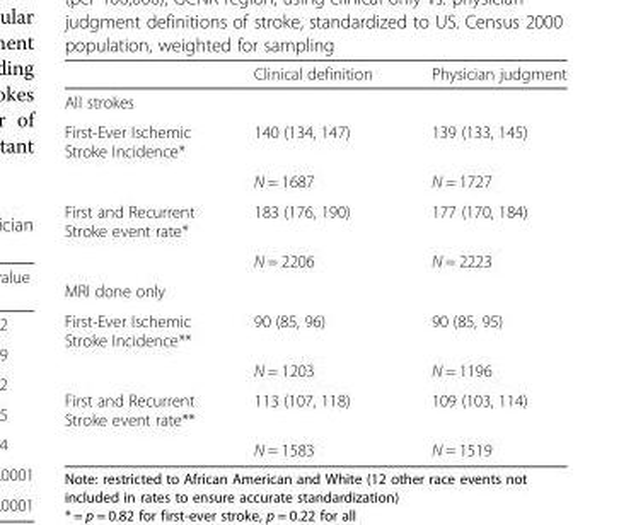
<table><thead><tr><td></td><td>Clinical definition</td><td>Physician judgment</td></tr></thead><tbody><tr><td colspan="3">All strokes</td></tr><tr><td rowspan="2">First-Ever Ischemic Stroke Incidence*</td><td>140 (134, 147)</td><td>139 (133, 145)</td></tr><tr><td>N = 1687</td><td>N = 1727</td></tr><tr><td rowspan="2">First and Recurrent Stroke event rate*</td><td>183 (176, 190)</td><td>177 (170, 184)</td></tr><tr><td>N = 2206</td><td>N = 2223</td></tr><tr><td colspan="3">MRI done only</td></tr><tr><td rowspan="2">First-Ever Ischemic Stroke Incidence**</td><td>90 (85, 96)</td><td>90 (85, 95)</td></tr><tr><td>N = 1203</td><td>N = 1196</td></tr><tr><td rowspan="2">First and Recurrent Stroke event rate**</td><td>113 (107, 118)</td><td>109 (103, 114)</td></tr><tr><td>N = 1583</td><td>N = 1519</td></tr></tbody></table>